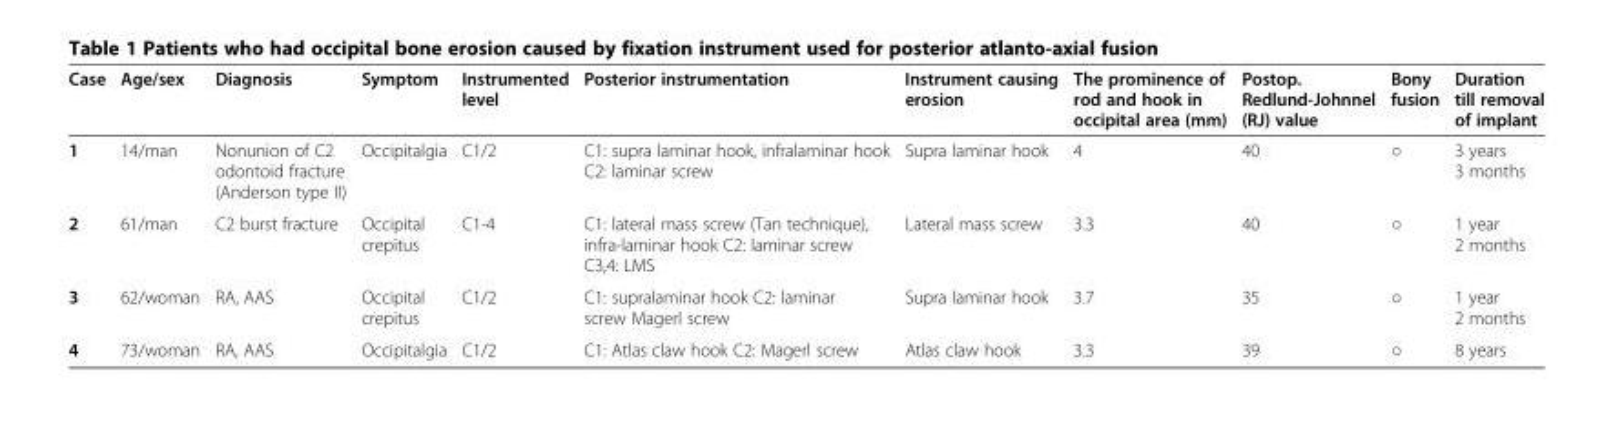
<table><thead><tr><td>Case</td><td>Age/sex</td><td>Diagnosis</td><td>Symptom</td><td>Instrumented level</td><td>Posterior instrumentation</td><td>Instrument causing erosion</td><td>The prominence of rod and hook in occipital area (mm)</td><td>Postop. Redlund-Johnnel (RJ) value</td><td>Bony fusion</td><td>Duration till removal of implant</td></tr></thead><tbody><tr><td>1</td><td>14/man</td><td>Nonunion of C2 odontoid fracture (Anderson type II)</td><td>Occipitalgia</td><td>C1/2</td><td>C1: supra laminar hook, infralaminar hook C2: laminar screw</td><td>Supra laminar hook</td><td>4</td><td>40</td><td>○</td><td>3 years 3 months</td></tr><tr><td>2</td><td>61/man</td><td>C2 burst fracture</td><td>Occipital crepitus</td><td>C1-4</td><td>C1: lateral mass screw (Tan technique), infra-laminar hook C2: laminar screw C3,4: LMS</td><td>Lateral mass screw</td><td>3.3</td><td>40</td><td>○</td><td>1 year 2 months</td></tr><tr><td>3</td><td>62/woman</td><td>RA, AAS</td><td>Occipital crepitus</td><td>C1/2</td><td>C1: supralaminar hook C2: laminar screw Magerl screw</td><td>Supra laminar hook</td><td>3.7</td><td>35</td><td>○</td><td>1 year 2 months</td></tr><tr><td>4</td><td>73/woman</td><td>RA, AAS</td><td>Occipitalgia</td><td>C1/2</td><td>C1: Atlas claw hook C2: Magerl screw</td><td>Atlas claw hook</td><td>3.3</td><td>39</td><td>○</td><td>8 years</td></tr></tbody></table>